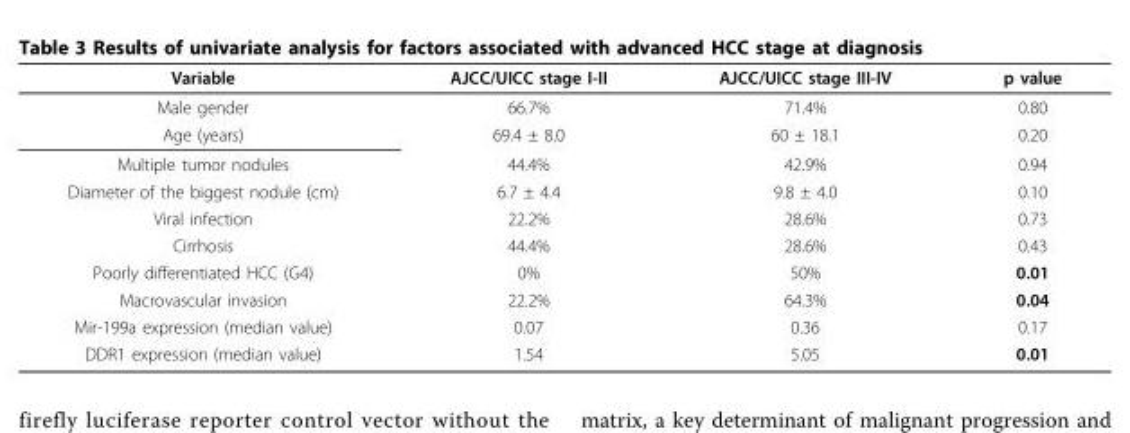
<table><thead><tr><td>Variable</td><td>AJCC/UICC stage I-II</td><td>AJCC/UICC stage III-IV</td><td>p value</td></tr></thead><tbody><tr><td>Male gender</td><td>66.7%</td><td>71.4%</td><td>0.80</td></tr><tr><td>Age (years)</td><td>69.4 ± 8.0</td><td>60 ± 18.1</td><td>0.20</td></tr><tr><td>Multiple tumor nodules</td><td>44.4%</td><td>42.9%</td><td>0.94</td></tr><tr><td>Diameter of the biggest nodule (cm)</td><td>6.7 ± 4.4</td><td>9.8 ± 4.0</td><td>0.10</td></tr><tr><td>Viral infection</td><td>22.2%</td><td>28.6%</td><td>0.73</td></tr><tr><td>Cirrhosis</td><td>44.4%</td><td>28.6%</td><td>0.43</td></tr><tr><td>Poorly differentiated HCC (G4)</td><td>0%</td><td>50%</td><td>0.01</td></tr><tr><td>Macrovascular invasion</td><td>22.2%</td><td>64.3%</td><td>0.04</td></tr><tr><td>Mir-199a expression (median value)</td><td>0.07</td><td>0.36</td><td>0.17</td></tr><tr><td>DDR1 expression (median value)</td><td>1.54</td><td>5.05</td><td>0.01</td></tr></tbody></table>